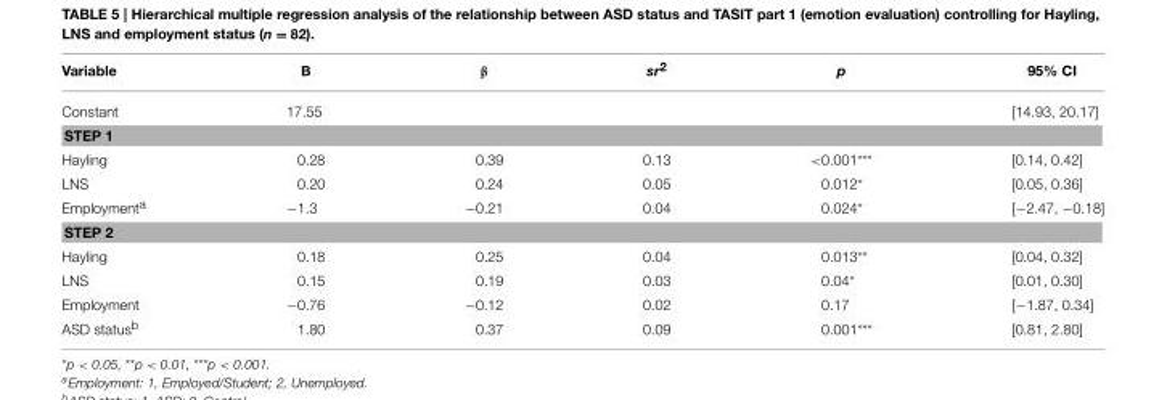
<table><thead><tr><td>Variable</td><td>B</td><td>β</td><td>sr<sup>2</sup></td><td>p</td><td>95% CI</td></tr></thead><tbody><tr><td>Constant</td><td>17.55</td><td></td><td></td><td></td><td>[14.93, 20.17]</td></tr><tr><td colspan="6">STEP 1</td></tr><tr><td>Hayling</td><td>0.28</td><td>0.39</td><td>0.13</td><td>&lt;0.001***</td><td>[0.14, 0.42]</td></tr><tr><td>LNS</td><td>0.20</td><td>0.24</td><td>0.05</td><td>0.012*</td><td>[0.05, 0.36]</td></tr><tr><td>Employment<sup>a</sup></td><td>−1.3</td><td>−0.21</td><td>0.04</td><td>0.024*</td><td>[−2.47, −0.18]</td></tr><tr><td colspan="6">STEP 2</td></tr><tr><td>Hayling</td><td>0.18</td><td>0.25</td><td>0.04</td><td>0.013**</td><td>[0.04, 0.32]</td></tr><tr><td>LNS</td><td>0.15</td><td>0.19</td><td>0.03</td><td>0.04*</td><td>[0.01, 0.30]</td></tr><tr><td>Employment</td><td>−0.76</td><td>−0.12</td><td>0.02</td><td>0.17</td><td>[−1.87, 0.34]</td></tr><tr><td>ASD status<sup>b</sup></td><td>1.80</td><td>0.37</td><td>0.09</td><td>0.001***</td><td>[0.81, 2.80]</td></tr></tbody></table>